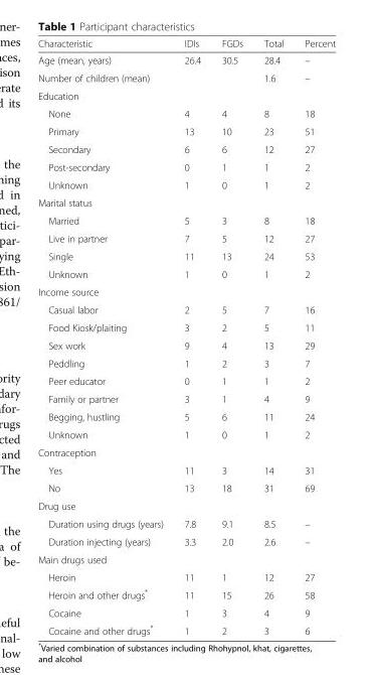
<table><thead><tr><td>Characteristic</td><td>IDIs</td><td>FGDs</td><td>Total</td><td>Percent</td></tr></thead><tbody><tr><td>Age (mean, years)</td><td>26.4</td><td>30.5</td><td>28.4</td><td>–</td></tr><tr><td>Number of children (mean)</td><td></td><td></td><td>1.6</td><td>–</td></tr><tr><td colspan="5">Education</td></tr><tr><td>None</td><td>4</td><td>4</td><td>8</td><td>18</td></tr><tr><td>Primary</td><td>13</td><td>10</td><td>23</td><td>51</td></tr><tr><td>Secondary</td><td>6</td><td>6</td><td>12</td><td>27</td></tr><tr><td>Post-secondary</td><td>0</td><td>1</td><td>1</td><td>2</td></tr><tr><td>Unknown</td><td>1</td><td>0</td><td>1</td><td>2</td></tr><tr><td colspan="5">Marital status</td></tr><tr><td>Married</td><td>5</td><td>3</td><td>8</td><td>18</td></tr><tr><td>Live in partner</td><td>7</td><td>5</td><td>12</td><td>27</td></tr><tr><td>Single</td><td>11</td><td>13</td><td>24</td><td>53</td></tr><tr><td>Unknown</td><td>1</td><td>0</td><td>1</td><td>2</td></tr><tr><td colspan="5">Income source</td></tr><tr><td>Casual labor</td><td>2</td><td>5</td><td>7</td><td>16</td></tr><tr><td>Food Kiosk/plaiting</td><td>3</td><td>2</td><td>5</td><td>11</td></tr><tr><td>Sex work</td><td>9</td><td>4</td><td>13</td><td>29</td></tr><tr><td>Peddling</td><td>1</td><td>2</td><td>3</td><td>7</td></tr><tr><td>Peer educator</td><td>0</td><td>1</td><td>1</td><td>2</td></tr><tr><td>Family or partner</td><td>3</td><td>1</td><td>4</td><td>9</td></tr><tr><td>Begging, hustling</td><td>5</td><td>6</td><td>11</td><td>24</td></tr><tr><td>Unknown</td><td>1</td><td>0</td><td>1</td><td>2</td></tr><tr><td colspan="5">Contraception</td></tr><tr><td>Yes</td><td>11</td><td>3</td><td>14</td><td>31</td></tr><tr><td>No</td><td>13</td><td>18</td><td>31</td><td>69</td></tr><tr><td colspan="5">Drug use</td></tr><tr><td>Duration using drugs (years)</td><td>7.8</td><td>9.1</td><td>8.5</td><td>–</td></tr><tr><td>Duration injecting (years)</td><td>3.3</td><td>2.0</td><td>2.6</td><td>–</td></tr><tr><td colspan="5">Main drugs used</td></tr><tr><td>Heroin</td><td>11</td><td>1</td><td>12</td><td>27</td></tr><tr><td>Heroin and other drugs*</td><td>11</td><td>15</td><td>26</td><td>58</td></tr><tr><td>Cocaine</td><td>1</td><td>3</td><td>4</td><td>9</td></tr><tr><td>Cocaine and other drugs*</td><td>1</td><td>2</td><td>3</td><td>6</td></tr></tbody></table>